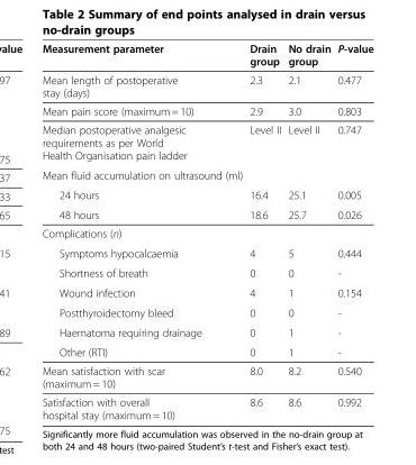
<table><thead><tr><td>Measurement parameter</td><td>Drain group</td><td>No drain group</td><td>P-value</td></tr></thead><tbody><tr><td>Mean length of postoperative stay (days)</td><td>2.3</td><td>2.1</td><td>0.477</td></tr><tr><td>Mean pain score (maximum = 10)</td><td>2.9</td><td>3.0</td><td>0.803</td></tr><tr><td>Median postoperative analgesic requirements as per World Health Organisation pain ladder</td><td>Level II</td><td>Level II</td><td>0.747</td></tr><tr><td colspan="4">Mean fluid accumulation on ultrasound (ml)</td></tr><tr><td>24 hours</td><td>16.4</td><td>25.1</td><td>0.005</td></tr><tr><td>48 hours</td><td>18.6</td><td>25.7</td><td>0.026</td></tr><tr><td colspan="4">Complications (n)</td></tr><tr><td>Symptoms hypocalcaemia</td><td>4</td><td>5</td><td>0.444</td></tr><tr><td>Shortness of breath</td><td>0</td><td>0</td><td>-</td></tr><tr><td>Wound infection</td><td>4</td><td>1</td><td>0.154</td></tr><tr><td>Postthyroidectomy bleed</td><td>0</td><td>0</td><td>-</td></tr><tr><td>Haematoma requiring drainage</td><td>0</td><td>1</td><td>-</td></tr><tr><td>Other (RTI)</td><td>0</td><td>1</td><td>-</td></tr><tr><td>Mean satisfaction with scar (maximum = 10)</td><td>8.0</td><td>8.2</td><td>0.540</td></tr><tr><td>Satisfaction with overall hospital stay (maximum = 10)</td><td>8.6</td><td>8.6</td><td>0.992</td></tr></tbody></table>